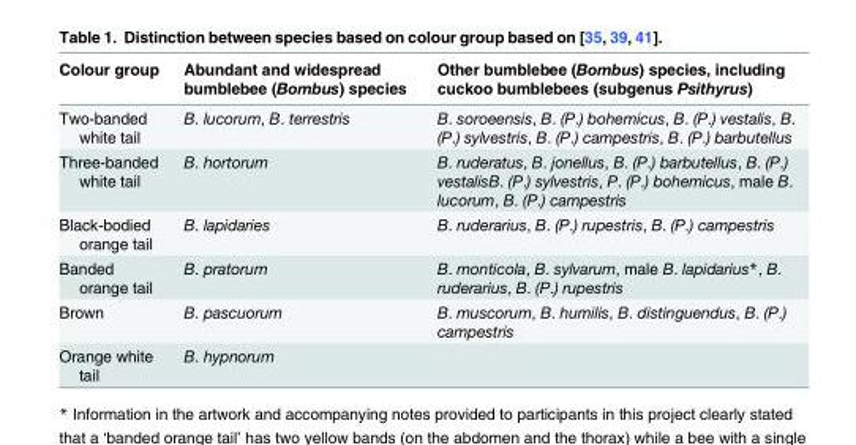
<table><thead><tr><td>Colour group</td><td>Abundant and widespread bumblebee (Bombus) species</td><td>Other bumblebee (Bombus) species, including cuckoo bumblebees (subgenus Psithyrus)</td></tr></thead><tbody><tr><td>Two-banded white tail</td><td>B. lucorum, B. terrestris</td><td>B. soroeensis, B. (P.) bohemicus, B. (P.) vestalis, B. (P.) sylvestris, B. (P.) campestris, B. (P.) barbutellus</td></tr><tr><td>Three-banded white tail</td><td>B. hortorum</td><td>B. ruderatus, B. jonellus, B. (P.) barbutellus, B. (P.) vestalisB. (P.) sylvestris, P. (P.) bohemicus, male B. lucorum, B. (P.) campestris</td></tr><tr><td>Black-bodied orange tail</td><td>B. lapidaries</td><td>B. ruderarius, B. (P.) rupestris, B. (P.) campestris</td></tr><tr><td>Banded orange tail</td><td>B. pratorum</td><td>B. monticola, B. sylvarum, male B. lapidarius*, B. ruderarius, B. (P.) rupestris</td></tr><tr><td>Brown</td><td>B. pascuorum</td><td>B. muscorum, B. humilis, B. distinguendus, B. (P.) campestris</td></tr><tr><td>Orange white tail</td><td>B. hypnorum</td><td></td></tr></tbody></table>